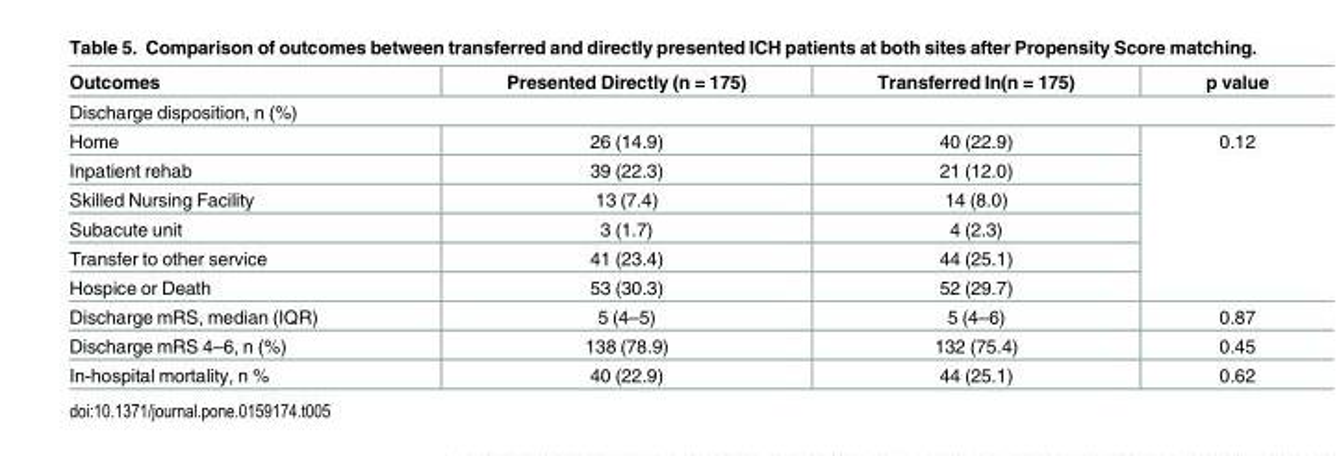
<table><thead><tr><td>Outcomes</td><td>Presented Directly (n = 175)</td><td>Transferred In(n = 175)</td><td>p value</td></tr></thead><tbody><tr><td colspan="4">Discharge disposition, n (%)</td></tr><tr><td>Home</td><td>26 (14.9)</td><td>40 (22.9)</td><td rowspan="6">0.12</td></tr><tr><td>Inpatient rehab</td><td>39 (22.3)</td><td>21 (12.0)</td></tr><tr><td>Skilled Nursing Facility</td><td>13 (7.4)</td><td>14 (8.0)</td></tr><tr><td>Subacute unit</td><td>3 (1.7)</td><td>4 (2.3)</td></tr><tr><td>Transfer to other service</td><td>41 (23.4)</td><td>44 (25.1)</td></tr><tr><td>Hospice or Death</td><td>53 (30.3)</td><td>52 (29.7)</td></tr><tr><td>Discharge mRS, median (IQR)</td><td>5 (4–5)</td><td>5 (4–6)</td><td>0.87</td></tr><tr><td>Discharge mRS 4–6, n (%)</td><td>138 (78.9)</td><td>132 (75.4)</td><td>0.45</td></tr><tr><td>In-hospital mortality, n %</td><td>40 (22.9)</td><td>44 (25.1)</td><td>0.62</td></tr></tbody></table>